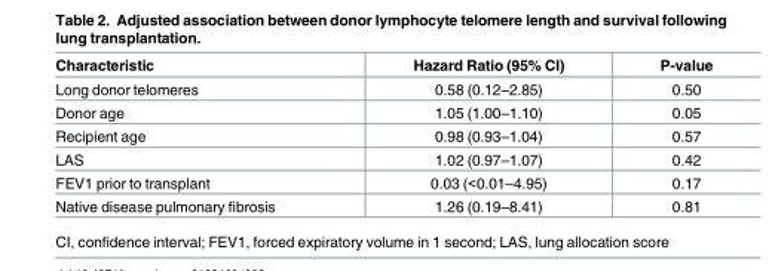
<table><thead><tr><td>Characteristic</td><td>Hazard Ratio (95% CI)</td><td>P-value</td></tr></thead><tbody><tr><td>Long donor telomeres</td><td>0.58 (0.12–2.85)</td><td>0.50</td></tr><tr><td>Donor age</td><td>1.05 (1.00–1.10)</td><td>0.05</td></tr><tr><td>Recipient age</td><td>0.98 (0.93–1.04)</td><td>0.57</td></tr><tr><td>LAS</td><td>1.02 (0.97–1.07)</td><td>0.42</td></tr><tr><td>FEV1 prior to transplant</td><td>0.03 (&lt;0.01–4.95)</td><td>0.17</td></tr><tr><td>Native disease pulmonary fibrosis</td><td>1.26 (0.19–8.41)</td><td>0.81</td></tr></tbody></table>